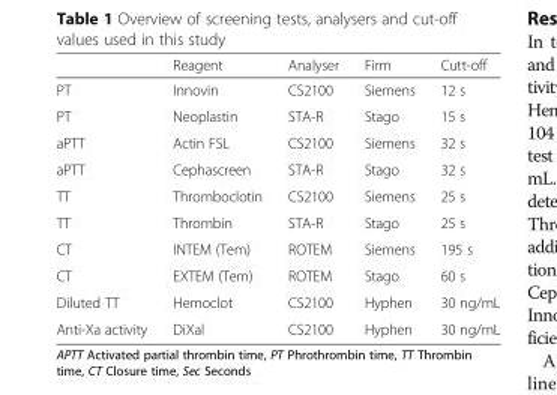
<table><thead><tr><td></td><td>Reagent</td><td>Analyser</td><td>Firm</td><td>Cutt-off</td></tr></thead><tbody><tr><td>PT</td><td>Innovin</td><td>CS2100</td><td>Siemens</td><td>12 s</td></tr><tr><td>PT</td><td>Neoplastin</td><td>STA-R</td><td>Stago</td><td>15 s</td></tr><tr><td>aPTT</td><td>Actin FSL</td><td>CS2100</td><td>Siemens</td><td>32 s</td></tr><tr><td>aPTT</td><td>Cephascreen</td><td>STA-R</td><td>Stago</td><td>32 s</td></tr><tr><td>TT</td><td>Thromboclotin</td><td>CS2100</td><td>Siemens</td><td>25 s</td></tr><tr><td>TT</td><td>Thrombin</td><td>STA-R</td><td>Stago</td><td>25 s</td></tr><tr><td>CT</td><td>INTEM (Tem)</td><td>ROTEM</td><td>Siemens</td><td>195 s</td></tr><tr><td>CT</td><td>EXTEM (Tem)</td><td>ROTEM</td><td>Stago</td><td>60 s</td></tr><tr><td>Diluted TT</td><td>Hemoclot</td><td>CS2100</td><td>Hyphen</td><td>30 ng/mL</td></tr><tr><td>Anti-Xa activity</td><td>DiXal</td><td>CS2100</td><td>Hyphen</td><td>30 ng/mL</td></tr></tbody></table>